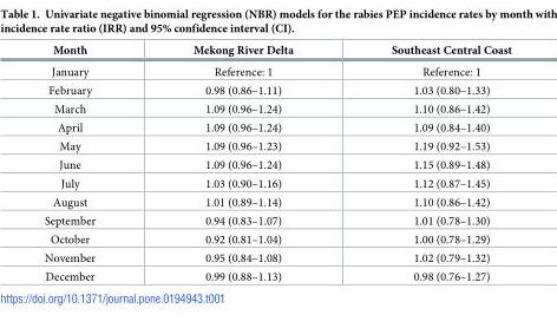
<table><thead><tr><td>Month</td><td>Mekong River Delta</td><td>Southeast Central Coast</td></tr></thead><tbody><tr><td>January</td><td>Reference: 1</td><td>Reference: 1</td></tr><tr><td>February</td><td>0.98 (0.86–1.11)</td><td>1.03 (0.80–1.33)</td></tr><tr><td>March</td><td>1.09 (0.96–1.24)</td><td>1.10 (0.86–1.42)</td></tr><tr><td>April</td><td>1.09 (0.96–1.24)</td><td>1.09 (0.84–1.40)</td></tr><tr><td>May</td><td>1.09 (0.96–1.23)</td><td>1.19 (0.92–1.53)</td></tr><tr><td>June</td><td>1.09 (0.96–1.24)</td><td>1.15 (0.89–1.48)</td></tr><tr><td>July</td><td>1.03 (0.90–1.16)</td><td>1.12 (0.87–1.45)</td></tr><tr><td>August</td><td>1.01 (0.89–1.14)</td><td>1.10 (0.86–1.42)</td></tr><tr><td>September</td><td>0.94 (0.83–1.07)</td><td>1.01 (0.78–1.30)</td></tr><tr><td>October</td><td>0.92 (0.81–1.04)</td><td>1.00 (0.78–1.29)</td></tr><tr><td>November</td><td>0.95 (0.84–1.08)</td><td>1.02 (0.79–1.32)</td></tr><tr><td>December</td><td>0.99 (0.88–1.13)</td><td>0.98 (0.76–1.27)</td></tr></tbody></table>